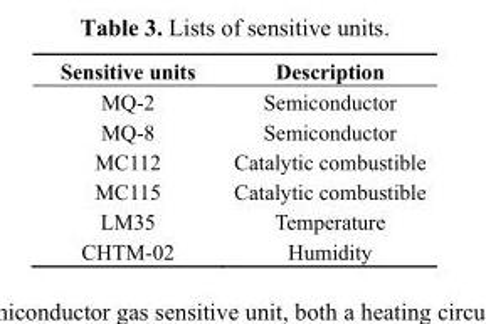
<table><thead><tr><td>Sensitive units</td><td>Description</td></tr></thead><tbody><tr><td>MQ-2</td><td>Semiconductor</td></tr><tr><td>MQ-8</td><td>Semiconductor</td></tr><tr><td>MC112</td><td>Catalytic combustible</td></tr><tr><td>MC115</td><td>Catalytic combustible</td></tr><tr><td>LM35</td><td>Temperature</td></tr><tr><td>CHTM-02</td><td>Humidity</td></tr></tbody></table>